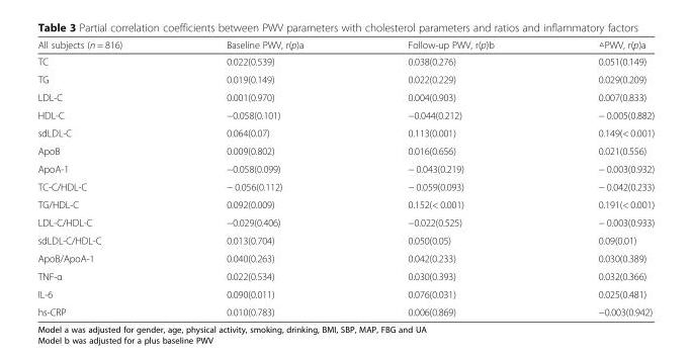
<table><thead><tr><td>All subjects (n = 816)</td><td>Baseline PWV, r(p)a</td><td>Follow-up PWV, r(p)b</td><td>△PWV, r(p)a</td></tr></thead><tbody><tr><td>TC</td><td>0.022(0.539)</td><td>0.038(0.276)</td><td>0.051(0.149)</td></tr><tr><td>TG</td><td>0.019(0.149)</td><td>0.022(0.229)</td><td>0.029(0.209)</td></tr><tr><td>LDL-C</td><td>0.001(0.970)</td><td>0.004(0.903)</td><td>0.007(0.833)</td></tr><tr><td>HDL-C</td><td>−0.058(0.101)</td><td>−0.044(0.212)</td><td>− 0.005(0.882)</td></tr><tr><td>sdLDL-C</td><td>0.064(0.07)</td><td>0.113(0.001)</td><td>0.149(&lt; 0.001)</td></tr><tr><td>ApoB</td><td>0.009(0.802)</td><td>0.016(0.656)</td><td>0.021(0.556)</td></tr><tr><td>ApoA-1</td><td>−0.058(0.099)</td><td>− 0.043(0.219)</td><td>− 0.003(0.932)</td></tr><tr><td>TC-C/HDL-C</td><td>− 0.056(0.112)</td><td>− 0.059(0.093)</td><td>− 0.042(0.233)</td></tr><tr><td>TG/HDL-C</td><td>0.092(0.009)</td><td>0.152(&lt; 0.001)</td><td>0.191(&lt; 0.001)</td></tr><tr><td>LDL-C/HDL-C</td><td>−0.029(0.406)</td><td>−0.022(0.525)</td><td>− 0.003(0.933)</td></tr><tr><td>sdLDL-C/HDL-C</td><td>0.013(0.704)</td><td>0.050(0.05)</td><td>0.09(0.01)</td></tr><tr><td>ApoB/ApoA-1</td><td>0.040(0.263)</td><td>0.042(0.233)</td><td>0.030(0.389)</td></tr><tr><td>TNF-α</td><td>0.022(0.534)</td><td>0.030(0.393)</td><td>0.032(0.366)</td></tr><tr><td>IL-6</td><td>0.090(0.011)</td><td>0.076(0.031)</td><td>0.025(0.481)</td></tr><tr><td>hs-CRP</td><td>0.010(0.783)</td><td>0.006(0.869)</td><td>−0.003(0.942)</td></tr></tbody></table>